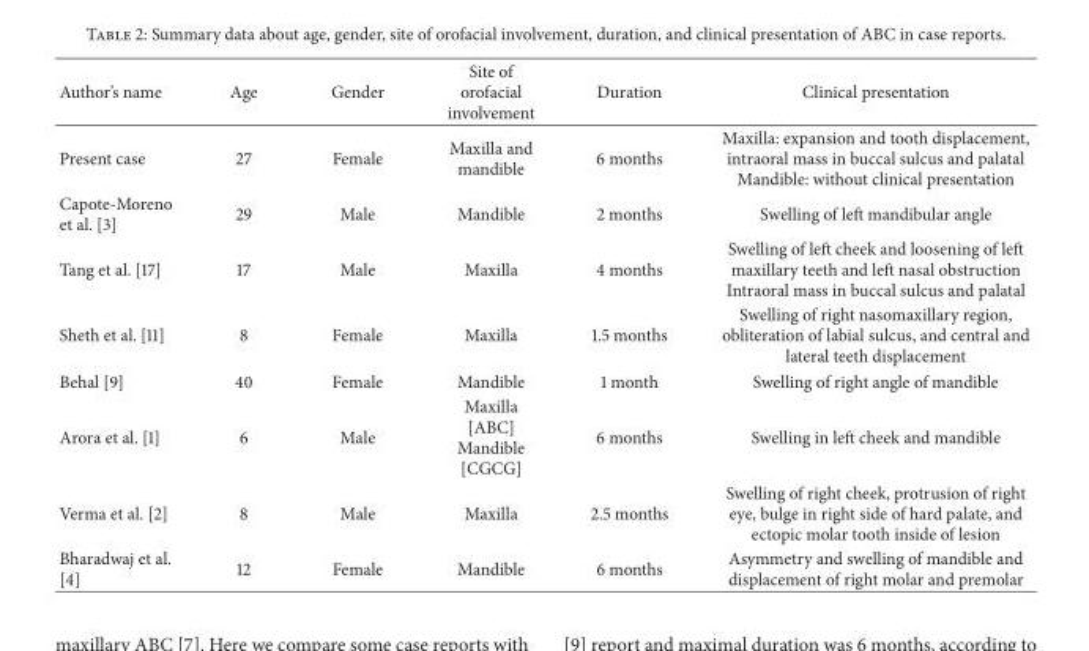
<table><thead><tr><td>Author’s name</td><td>Age</td><td>Gender</td><td>Site of orofacial involvement</td><td>Duration</td><td>Clinical presentation</td></tr></thead><tbody><tr><td>Present case</td><td>27</td><td>Female</td><td>Maxilla and mandible</td><td>6 months</td><td>Maxilla: expansion and tooth displacement, intraoral mass in buccal sulcus and palatal Mandible: without clinical presentation</td></tr><tr><td>Capote-Moreno et al. [3]</td><td>29</td><td>Male</td><td>Mandible</td><td>2 months</td><td>Swelling of left mandibular angle</td></tr><tr><td>Tang et al. [17]</td><td>17</td><td>Male</td><td>Maxilla</td><td>4 months</td><td>Swelling of left cheek and loosening of left maxillary teeth and left nasal obstruction Intraoral mass in buccal sulcus and palatal</td></tr><tr><td>Sheth et al. [11]</td><td>8</td><td>Female</td><td>Maxilla</td><td>1.5 months</td><td>Swelling of right nasomaxillary region, obliteration of labial sulcus, and central and lateral teeth displacement</td></tr><tr><td>Behal [9]</td><td>40</td><td>Female</td><td>Mandible</td><td>1 month</td><td>Swelling of right angle of mandible</td></tr><tr><td>Arora et al. [1]</td><td>6</td><td>Male</td><td>Maxilla [ABC] Mandible [CGCG]</td><td>6 months</td><td>Swelling in left cheek and mandible</td></tr><tr><td>Verma et al. [2]</td><td>8</td><td>Male</td><td>Maxilla</td><td>2.5 months</td><td>Swelling of right cheek, protrusion of right eye, bulge in right side of hard palate, and ectopic molar tooth inside of lesion</td></tr><tr><td>Bharadwaj et al. [4]</td><td>12</td><td>Female</td><td>Mandible</td><td>6 months</td><td>Asymmetry and swelling of mandible and displacement of right molar and premolar</td></tr></tbody></table>